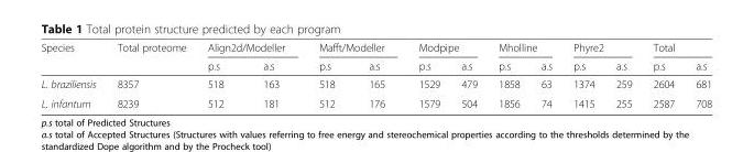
<table><thead><tr><td rowspan="2">Species</td><td rowspan="2">Total proteome</td><td colspan="2">Align2d/Modeller</td><td colspan="2">Mafft/Modeller</td><td colspan="2">Modpipe</td><td colspan="2">Mholline</td><td colspan="2">Phyre2</td><td colspan="2">Total</td></tr><tr><td>p.s</td><td>a.s</td><td>p.s</td><td>a.s</td><td>p.s</td><td>a.s</td><td>p.s</td><td>a.s</td><td>p.s</td><td>a.s</td><td>p.s</td><td>a.s</td></tr></thead><tbody><tr><td>L. braziliensis</td><td>8357</td><td>518</td><td>163</td><td>518</td><td>165</td><td>1529</td><td>479</td><td>1858</td><td>63</td><td>1374</td><td>259</td><td>2604</td><td>681</td></tr><tr><td>L. infantum</td><td>8239</td><td>512</td><td>181</td><td>512</td><td>176</td><td>1579</td><td>504</td><td>1856</td><td>74</td><td>1415</td><td>255</td><td>2587</td><td>708</td></tr></tbody></table>